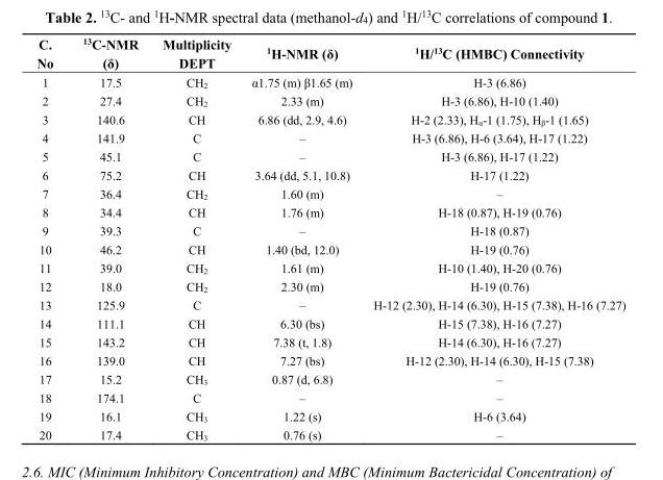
<table><thead><tr><td>C. No</td><td><sup>13</sup>C-NMR (δ)</td><td>Multiplicity DEPT</td><td><sup>1</sup>H-NMR (δ)</td><td><sup>1</sup>H/<sup>13</sup>C (HMBC) Connectivity</td></tr></thead><tbody><tr><td>1</td><td>17.5</td><td>CH<sub>2</sub></td><td>α1.75 (m) β1.65 (m)</td><td>H-3 (6.86)</td></tr><tr><td>2</td><td>27.4</td><td>CH<sub>2</sub></td><td>2.33 (m)</td><td>H-3 (6.86), H-10 (1.40)</td></tr><tr><td>3</td><td>140.6</td><td>CH</td><td>6.86 (dd, 2.9, 4.6)</td><td>H-2 (2.33), H<sub>α</sub>-1 (1.75), H<sub>β</sub>-1 (1.65)</td></tr><tr><td>4</td><td>141.9</td><td>C</td><td>–</td><td>H-3 (6.86), H-6 (3.64), H-17 (1.22)</td></tr><tr><td>5</td><td>45.1</td><td>C</td><td>–</td><td>H-3 (6.86), H-17 (1.22)</td></tr><tr><td>6</td><td>75.2</td><td>CH</td><td>3.64 (dd, 5.1, 10.8)</td><td>H-17 (1.22)</td></tr><tr><td>7</td><td>36.4</td><td>CH<sub>2</sub></td><td>1.60 (m)</td><td>–</td></tr><tr><td>8</td><td>34.4</td><td>CH</td><td>1.76 (m)</td><td>H-18 (0.87), H-19 (0.76)</td></tr><tr><td>9</td><td>39.3</td><td>C</td><td>–</td><td>H-18 (0.87)</td></tr><tr><td>10</td><td>46.2</td><td>CH</td><td>1.40 (bd, 12.0)</td><td>H-19 (0.76)</td></tr><tr><td>11</td><td>39.0</td><td>CH<sub>2</sub></td><td>1.61 (m)</td><td>H-10 (1.40), H-20 (0.76)</td></tr><tr><td>12</td><td>18.0</td><td>CH<sub>2</sub></td><td>2.30 (m)</td><td>H-19 (0.76)</td></tr><tr><td>13</td><td>125.9</td><td>C</td><td>–</td><td>H-12 (2.30), H-14 (6.30), H-15 (7.38), H-16 (7.27)</td></tr><tr><td>14</td><td>111.1</td><td>CH</td><td>6.30 (bs)</td><td>H-15 (7.38), H-16 (7.27)</td></tr><tr><td>15</td><td>143.2</td><td>CH</td><td>7.38 (t, 1.8)</td><td>H-14 (6.30), H-16 (7.27)</td></tr><tr><td>16</td><td>139.0</td><td>CH</td><td>7.27 (bs)</td><td>H-12 (2.30), H-14 (6.30), H-15 (7.38)</td></tr><tr><td>17</td><td>15.2</td><td>CH<sub>3</sub></td><td>0.87 (d, 6.8)</td><td>–</td></tr><tr><td>18</td><td>174.1</td><td>C</td><td>–</td><td>–</td></tr><tr><td>19</td><td>16.1</td><td>CH<sub>3</sub></td><td>1.22 (s)</td><td>H-6 (3.64)</td></tr><tr><td>20</td><td>17.4</td><td>CH<sub>3</sub></td><td>0.76 (s)</td><td>–</td></tr></tbody></table>